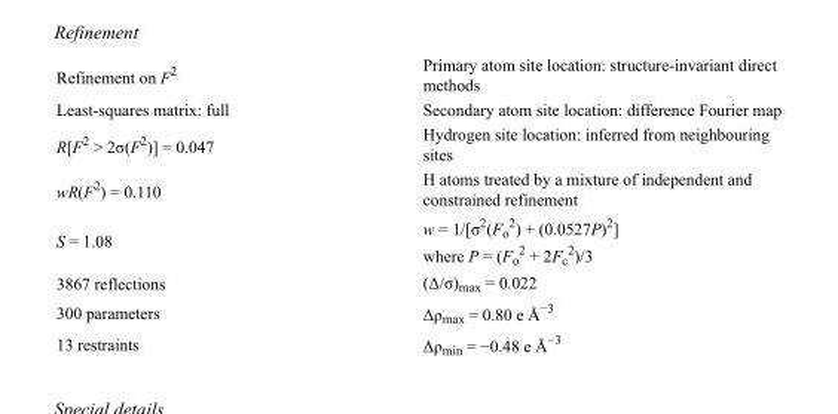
<table><tbody><tr><td>Refinement on F<sup>2</sup></td><td>Primary atom site location: structure-invariant direct methods</td></tr><tr><td>Least-squares matrix: full</td><td>Secondary atom site location: difference Fourier map</td></tr><tr><td>R[F<sup>2</sup> &gt; 2σ(F<sup>2</sup>)] = 0.047</td><td>Hydrogen site location: inferred from neighbouring sites</td></tr><tr><td>wR(F<sup>2</sup>) = 0.110</td><td>H atoms treated by a mixture of independent and constrained refinement</td></tr><tr><td>S = 1.08</td><td>w = 1/[σ<sup>2</sup>(F<sub>o</sub> <sup>2</sup>) + (0.0527P)<sup>2</sup>] where P = (F<sub>o</sub> <sup>2</sup> + 2F<sub>c</sub> <sup>2</sup>)/3</td></tr><tr><td>3867 reflections</td><td>(Δ/σ)<sub>max</sub> = 0.022</td></tr><tr><td>300 parameters</td><td>Δρ<sub>max</sub> = 0.80 e Å<sup>−3</sup></td></tr><tr><td>13 restraints</td><td>Δρ<sub>min</sub> = −0.48 e Å<sup>−3</sup></td></tr></tbody></table>